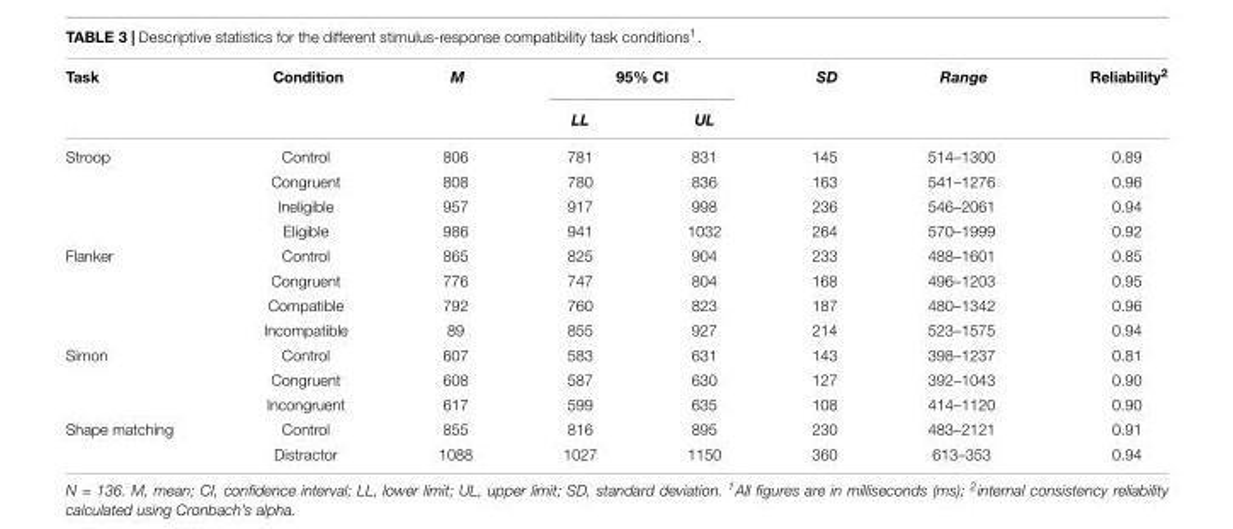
<table><thead><tr><td rowspan="2">Task</td><td rowspan="2">Condition</td><td rowspan="2">M</td><td colspan="2">95% CI</td><td rowspan="2">SD</td><td rowspan="2">Range</td><td rowspan="2">Reliability<sup>2</sup></td></tr><tr><td>LL</td><td>UL</td></tr></thead><tbody><tr><td rowspan="4">Stroop</td><td>Control</td><td>806</td><td>781</td><td>831</td><td>145</td><td>514–1300</td><td>0.89</td></tr><tr><td>Congruent</td><td>808</td><td>780</td><td>836</td><td>163</td><td>541–1276</td><td>0.96</td></tr><tr><td>Ineligible</td><td>957</td><td>917</td><td>998</td><td>236</td><td>546–2061</td><td>0.94</td></tr><tr><td>Eligible</td><td>986</td><td>941</td><td>1032</td><td>264</td><td>570–1999</td><td>0.92</td></tr><tr><td rowspan="4">Flanker</td><td>Control</td><td>865</td><td>825</td><td>904</td><td>233</td><td>488–1601</td><td>0.85</td></tr><tr><td>Congruent</td><td>776</td><td>747</td><td>804</td><td>168</td><td>496–1203</td><td>0.95</td></tr><tr><td>Compatible</td><td>792</td><td>760</td><td>823</td><td>187</td><td>480–1342</td><td>0.96</td></tr><tr><td>Incompatible</td><td>89</td><td>855</td><td>927</td><td>214</td><td>523–1575</td><td>0.94</td></tr><tr><td rowspan="3">Simon</td><td>Control</td><td>607</td><td>583</td><td>631</td><td>143</td><td>398–1237</td><td>0.81</td></tr><tr><td>Congruent</td><td>608</td><td>587</td><td>630</td><td>127</td><td>392–1043</td><td>0.90</td></tr><tr><td>Incongruent</td><td>617</td><td>599</td><td>635</td><td>108</td><td>414–1120</td><td>0.90</td></tr><tr><td rowspan="2">Shape matching</td><td>Control</td><td>855</td><td>816</td><td>895</td><td>230</td><td>483–2121</td><td>0.91</td></tr><tr><td>Distractor</td><td>1088</td><td>1027</td><td>1150</td><td>360</td><td>613–353</td><td>0.94</td></tr></tbody></table>